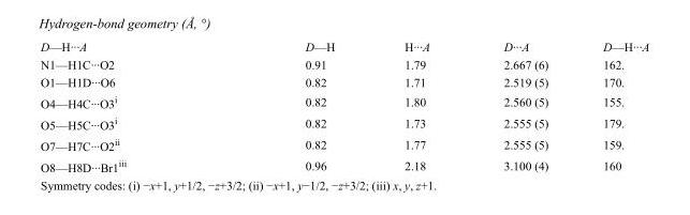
<table><tbody><tr><td>D—H···A</td><td>D—H</td><td>H···A</td><td>D···A</td><td>D—H···A</td></tr><tr><td>N1—H1C···O2</td><td>0.91</td><td>1.79</td><td>2.667 (6)</td><td>162.</td></tr><tr><td>O1—H1D···O6</td><td>0.82</td><td>1.71</td><td>2.519 (5)</td><td>170.</td></tr><tr><td>O4—H4C···O3<sup>i</sup></td><td>0.82</td><td>1.80</td><td>2.560 (5)</td><td>155.</td></tr><tr><td>O5—H5C···O3<sup>i</sup></td><td>0.82</td><td>1.73</td><td>2.555 (5)</td><td>179.</td></tr><tr><td>O7—H7C···O2<sup>ii</sup></td><td>0.82</td><td>1.77</td><td>2.555 (5)</td><td>159.</td></tr><tr><td>O8—H8D···Br1<sup>iii</sup></td><td>0.96</td><td>2.18</td><td>3.100 (4)</td><td>160</td></tr></tbody></table>